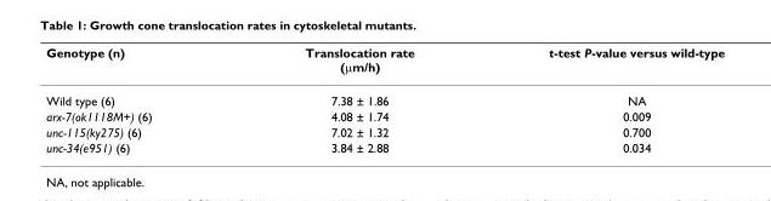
<table><thead><tr><td>Genotype (n)</td><td>Translocation rate (μm/h)</td><td>t-test P-value versus wild-type</td></tr></thead><tbody><tr><td>Wild type (6)</td><td>7.38 ± 1.86</td><td>NA</td></tr><tr><td>arx-7(ok1118M+) (6)</td><td>4.08 ± 1.74</td><td>0.009</td></tr><tr><td>unc-115(ky275) (6)</td><td>7.02 ± 1.32</td><td>0.700</td></tr><tr><td>unc-34(e951) (6)</td><td>3.84 ± 2.88</td><td>0.034</td></tr></tbody></table>